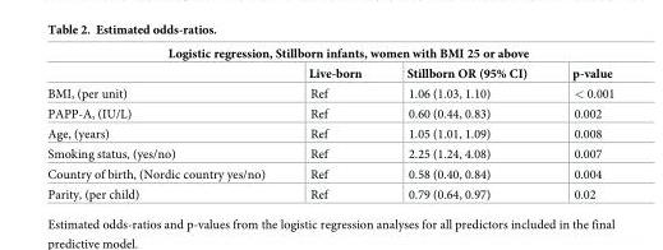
<table><thead><tr><td colspan="4">Logistic regression, Stillborn infants, women with BMI 25 or above</td></tr><tr><td></td><td>Live-born</td><td>Stillborn OR (95% CI)</td><td>p-value</td></tr></thead><tbody><tr><td>BMI, (per unit)</td><td>Ref</td><td>1.06 (1.03, 1.10)</td><td>&lt; 0.001</td></tr><tr><td>PAPP-A, (IU/L)</td><td>Ref</td><td>0.60 (0.44, 0.83)</td><td>0.002</td></tr><tr><td>Age, (years)</td><td>Ref</td><td>1.05 (1.01, 1.09)</td><td>0.008</td></tr><tr><td>Smoking status, (yes/no)</td><td>Ref</td><td>2.25 (1.24, 4.08)</td><td>0.007</td></tr><tr><td>Country of birth, (Nordic country yes/no)</td><td>Ref</td><td>0.58 (0.40, 0.84)</td><td>0.004</td></tr><tr><td>Parity, (per child)</td><td>Ref</td><td>0.79 (0.64, 0.97)</td><td>0.02</td></tr></tbody></table>